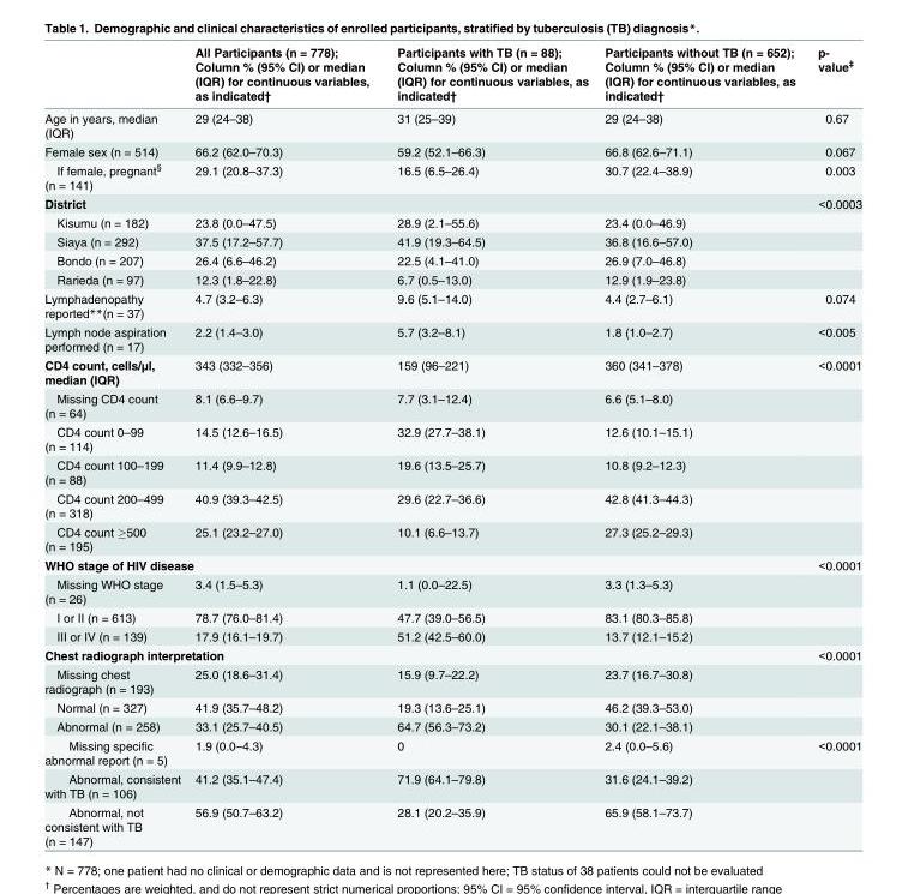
<table><thead><tr><td></td><td>All Participants (n = 778); Column % (95% CI) or median (IQR) for continuous variables, as indicated†</td><td>Participants with TB (n = 88); Column % (95% CI) or median (IQR) for continuous variables, as indicated†</td><td>Participants without TB (n = 652); Column % (95% CI) or median (IQR) for continuous variables, as indicated†</td><td>p- value<sup>‡</sup></td></tr></thead><tbody><tr><td>Age in years, median (IQR)</td><td>29 (24–38)</td><td>31 (25–39)</td><td>29 (24–38)</td><td>0.67</td></tr><tr><td>Female sex (n = 514)</td><td>66.2 (62.0–70.3)</td><td>59.2 (52.1–66.3)</td><td>66.8 (62.6–71.1)</td><td>0.067</td></tr><tr><td>If female, pregnant<sup>§</sup> (n = 141)</td><td>29.1 (20.8–37.3)</td><td>16.5 (6.5–26.4)</td><td>30.7 (22.4–38.9)</td><td>0.003</td></tr><tr><td colspan="4">District</td><td>&lt;0.0003</td></tr><tr><td>Kisumu (n = 182)</td><td>23.8 (0.0–47.5)</td><td>28.9 (2.1–55.6)</td><td>23.4 (0.0–46.9)</td><td></td></tr><tr><td>Siaya (n = 292)</td><td>37.5 (17.2–57.7)</td><td>41.9 (19.3–64.5)</td><td>36.8 (16.6–57.0)</td><td></td></tr><tr><td>Bondo (n = 207)</td><td>26.4 (6.6–46.2)</td><td>22.5 (4.1–41.0)</td><td>26.9 (7.0–46.8)</td><td></td></tr><tr><td>Rarieda (n = 97)</td><td>12.3 (1.8–22.8)</td><td>6.7 (0.5–13.0)</td><td>12.9 (1.9–23.8)</td><td></td></tr><tr><td>Lymphadenopathy reported**(n = 37)</td><td>4.7 (3.2–6.3)</td><td>9.6 (5.1–14.0)</td><td>4.4 (2.7–6.1)</td><td>0.074</td></tr><tr><td>Lymph node aspiration performed (n = 17)</td><td>2.2 (1.4–3.0)</td><td>5.7 (3.2–8.1)</td><td>1.8 (1.0–2.7)</td><td>&lt;0.005</td></tr><tr><td>CD4 count, cells/μl, median (IQR)</td><td>343 (332–356)</td><td>159 (96–221)</td><td>360 (341–378)</td><td>&lt;0.0001</td></tr><tr><td>Missing CD4 count (n = 64)</td><td>8.1 (6.6–9.7)</td><td>7.7 (3.1–12.4)</td><td>6.6 (5.1–8.0)</td><td></td></tr><tr><td>CD4 count 0–99 (n = 114)</td><td>14.5 (12.6–16.5)</td><td>32.9 (27.7–38.1)</td><td>12.6 (10.1–15.1)</td><td></td></tr><tr><td>CD4 count 100–199 (n = 88)</td><td>11.4 (9.9–12.8)</td><td>19.6 (13.5–25.7)</td><td>10.8 (9.2–12.3)</td><td></td></tr><tr><td>CD4 count 200–499 (n = 318)</td><td>40.9 (39.3–42.5)</td><td>29.6 (22.7–36.6)</td><td>42.8 (41.3–44.3)</td><td></td></tr><tr><td>CD4 count ≥500 (n = 195)</td><td>25.1 (23.2–27.0)</td><td>10.1 (6.6–13.7)</td><td>27.3 (25.2–29.3)</td><td></td></tr><tr><td colspan="4">WHO stage of HIV disease</td><td>&lt;0.0001</td></tr><tr><td>Missing WHO stage (n = 26)</td><td>3.4 (1.5–5.3)</td><td>1.1 (0.0–22.5)</td><td>3.3 (1.3–5.3)</td><td></td></tr><tr><td>I or II (n = 613)</td><td>78.7 (76.0–81.4)</td><td>47.7 (39.0–56.5)</td><td>83.1 (80.3–85.8)</td><td></td></tr><tr><td>III or IV (n = 139)</td><td>17.9 (16.1–19.7)</td><td>51.2 (42.5–60.0)</td><td>13.7 (12.1–15.2)</td><td></td></tr><tr><td colspan="4">Chest radiograph interpretation</td><td>&lt;0.0001</td></tr><tr><td>Missing chest radiograph (n = 193)</td><td>25.0 (18.6–31.4)</td><td>15.9 (9.7–22.2)</td><td>23.7 (16.7–30.8)</td><td></td></tr><tr><td>Normal (n = 327)</td><td>41.9 (35.7–48.2)</td><td>19.3 (13.6–25.1)</td><td>46.2 (39.3–53.0)</td><td></td></tr><tr><td>Abnormal (n = 258)</td><td>33.1 (25.7–40.5)</td><td>64.7 (56.3–73.2)</td><td>30.1 (22.1–38.1)</td><td></td></tr><tr><td>Missing specific abnormal report (n = 5)</td><td>1.9 (0.0–4.3)</td><td>0</td><td>2.4 (0.0–5.6)</td><td>&lt;0.0001</td></tr><tr><td>Abnormal, consistent with TB (n = 106)</td><td>41.2 (35.1–47.4)</td><td>71.9 (64.1–79.8)</td><td>31.6 (24.1–39.2)</td><td></td></tr><tr><td>Abnormal, not consistent with TB (n = 147)</td><td>56.9 (50.7–63.2)</td><td>28.1 (20.2–35.9)</td><td>65.9 (58.1–73.7)</td><td></td></tr></tbody></table>